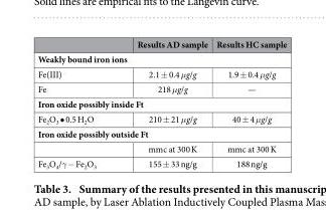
<table><thead><tr><td></td><td>Results AD sample</td><td>Results HC sample</td></tr></thead><tbody><tr><td colspan="3">Weakly bound iron ions</td></tr><tr><td>Fe(III)</td><td>2.1 ± 0.4 μg/g</td><td>1.9 ± 0.4 μg/g</td></tr><tr><td>Fe</td><td>218 μg/g</td><td>—</td></tr><tr><td colspan="3">Iron oxide possibly inside Ft</td></tr><tr><td>Fe<sub>2</sub>O<sub>3</sub> • 0.5 H<sub>2</sub>O</td><td>210 ± 21 μg/g</td><td>40 ± 4 μg/g</td></tr><tr><td colspan="3">Iron oxide possibly outside Ft</td></tr><tr><td></td><td>mmc at 300 K</td><td>mmc at 300 K</td></tr><tr><td>Fe<sub>3</sub>O<sub>4</sub>/γ − Fe<sub>2</sub>O<sub>3</sub></td><td>155 ± 33 ng/g</td><td>188 ng/g</td></tr></tbody></table>